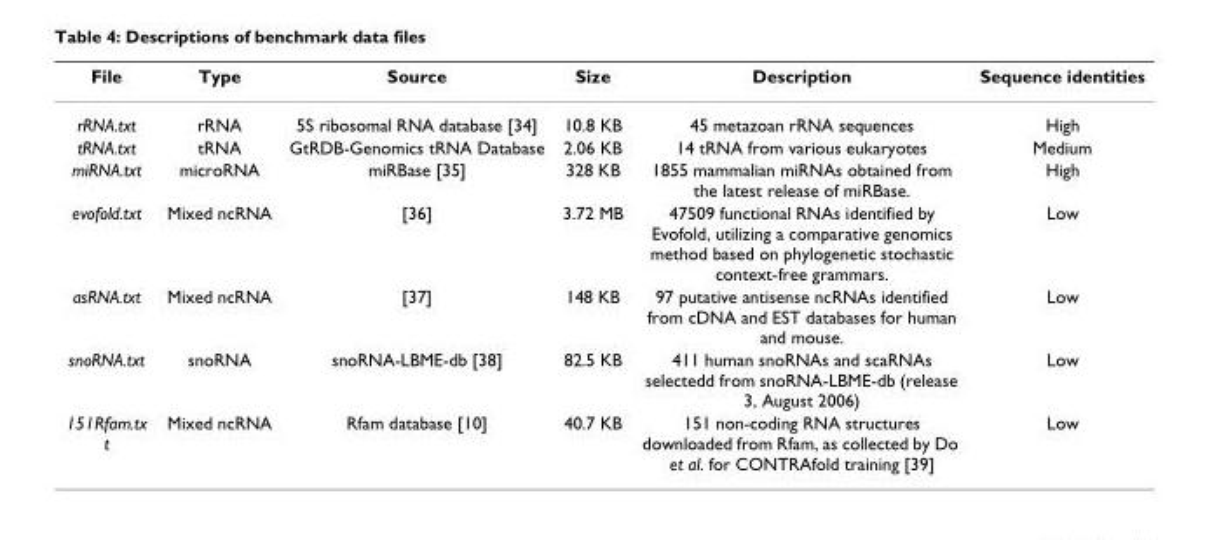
<table><thead><tr><td>File</td><td>Type</td><td>Source</td><td>Size</td><td>Description</td><td>Sequence identities</td></tr></thead><tbody><tr><td>rRNA.txt</td><td>rRNA</td><td>5S ribosomal RNA database [34]</td><td>10.8 KB</td><td>45 metazoan rRNA sequences</td><td>High</td></tr><tr><td>tRNA.txt</td><td>tRNA</td><td>GtRDB-Genomics tRNA Database</td><td>2.06 KB</td><td>14 tRNA from various eukaryotes</td><td>Medium</td></tr><tr><td>miRNA.txt</td><td>microRNA</td><td>miRBase [35]</td><td>328 KB</td><td>1855 mammalian miRNAs obtained from the latest release of miRBase.</td><td>High</td></tr><tr><td>evofold.txt</td><td>Mixed ncRNA</td><td>[36]</td><td>3.72 MB</td><td>47509 functional RNAs identified by Evofold, utilizing a comparative genomics method based on phylogenetic stochastic context-free grammars.</td><td>Low</td></tr><tr><td>asRNA.txt</td><td>Mixed ncRNA</td><td>[37]</td><td>148 KB</td><td>97 putative antisense ncRNAs identified from cDNA and EST databases for human and mouse.</td><td>Low</td></tr><tr><td>snoRNA.txt</td><td>snoRNA</td><td>snoRNA-LBME-db [38]</td><td>82.5 KB</td><td>411 human snoRNAs and scaRNAs selectedd from snoRNA-LBME-db (release 3, August 2006)</td><td>Low</td></tr><tr><td>151Rfam.tx t</td><td>Mixed ncRNA</td><td>Rfam database [10]</td><td>40.7 KB</td><td>151 non-coding RNA structures downloaded from Rfam, as collected by Do et al. for CONTRAfold training [39]</td><td>Low</td></tr></tbody></table>